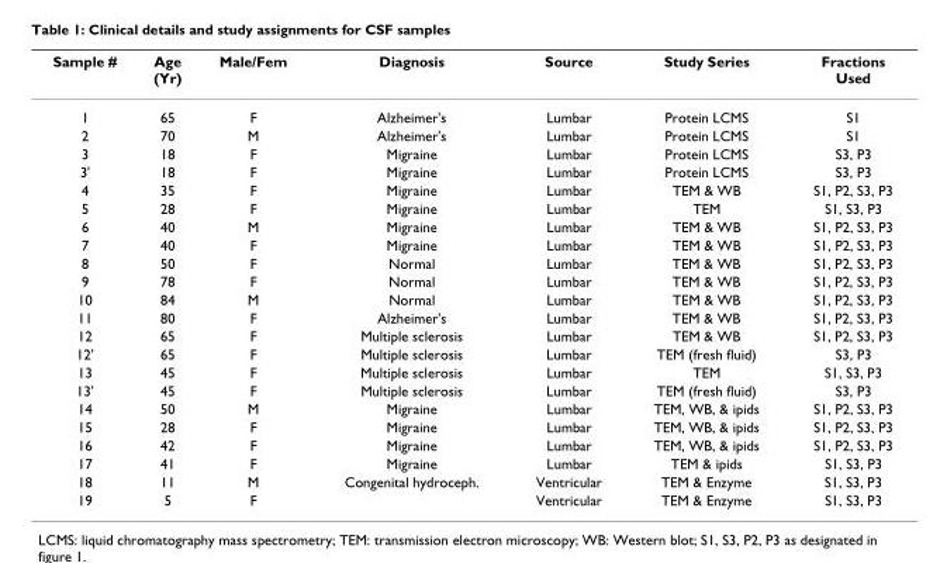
<table><thead><tr><td>Sample #</td><td>Age (Yr)</td><td>Male/Fem</td><td>Diagnosis</td><td>Source</td><td>Study Series</td><td>Fractions Used</td></tr></thead><tbody><tr><td>1</td><td>65</td><td>F</td><td>Alzheimer&#x27;s</td><td>Lumbar</td><td>Protein LCMS</td><td>S1</td></tr><tr><td>2</td><td>70</td><td>M</td><td>Alzheimer&#x27;s</td><td>Lumbar</td><td>Protein LCMS</td><td>S1</td></tr><tr><td>3</td><td>18</td><td>F</td><td>Migraine</td><td>Lumbar</td><td>Protein LCMS</td><td>S3, P3</td></tr><tr><td>3&#x27;</td><td>18</td><td>F</td><td>Migraine</td><td>Lumbar</td><td>Protein LCMS</td><td>S3, P3</td></tr><tr><td>4</td><td>35</td><td>F</td><td>Migraine</td><td>Lumbar</td><td>TEM &amp; WB</td><td>S1, P2, S3, P3</td></tr><tr><td>5</td><td>28</td><td>F</td><td>Migraine</td><td>Lumbar</td><td>TEM</td><td>S1, S3, P3</td></tr><tr><td>6</td><td>40</td><td>M</td><td>Migraine</td><td>Lumbar</td><td>TEM &amp; WB</td><td>S1, P2, S3, P3</td></tr><tr><td>7</td><td>40</td><td>F</td><td>Migraine</td><td>Lumbar</td><td>TEM &amp; WB</td><td>S1, P2, S3, P3</td></tr><tr><td>8</td><td>50</td><td>F</td><td>Normal</td><td>Lumbar</td><td>TEM &amp; WB</td><td>S1, P2, S3, P3</td></tr><tr><td>9</td><td>78</td><td>F</td><td>Normal</td><td>Lumbar</td><td>TEM &amp; WB</td><td>S1, P2, S3, P3</td></tr><tr><td>10</td><td>84</td><td>M</td><td>Normal</td><td>Lumbar</td><td>TEM &amp; WB</td><td>S1, P2, S3, P3</td></tr><tr><td>11</td><td>80</td><td>F</td><td>Alzheimer&#x27;s</td><td>Lumbar</td><td>TEM &amp; WB</td><td>S1, P2, S3, P3</td></tr><tr><td>12</td><td>65</td><td>F</td><td>Multiple sclerosis</td><td>Lumbar</td><td>TEM &amp; WB</td><td>S1, P2, S3, P3</td></tr><tr><td>12&#x27;</td><td>65</td><td>F</td><td>Multiple sclerosis</td><td>Lumbar</td><td>TEM (fresh fluid)</td><td>S3, P3</td></tr><tr><td>13</td><td>45</td><td>F</td><td>Multiple sclerosis</td><td>Lumbar</td><td>TEM</td><td>S1, S3, P3</td></tr><tr><td>13&#x27;</td><td>45</td><td>F</td><td>Multiple sclerosis</td><td>Lumbar</td><td>TEM (fresh fluid)</td><td>S3, P3</td></tr><tr><td>14</td><td>50</td><td>M</td><td>Migraine</td><td>Lumbar</td><td>TEM, WB, &amp; ipids</td><td>S1, P2, S3, P3</td></tr><tr><td>15</td><td>28</td><td>F</td><td>Migraine</td><td>Lumbar</td><td>TEM, WB, &amp; ipids</td><td>S1, P2, S3, P3</td></tr><tr><td>16</td><td>42</td><td>F</td><td>Migraine</td><td>Lumbar</td><td>TEM, WB, &amp; ipids</td><td>S1, P2, S3, P3</td></tr><tr><td>17</td><td>41</td><td>F</td><td>Migraine</td><td>Lumbar</td><td>TEM &amp; ipids</td><td>S1, S3, P3</td></tr><tr><td>18</td><td>11</td><td>M</td><td>Congenital hydroceph.</td><td>Ventricular</td><td>TEM &amp; Enzyme</td><td>S1, S3, P3</td></tr><tr><td>19</td><td>5</td><td>F</td><td></td><td>Ventricular</td><td>TEM &amp; Enzyme</td><td>S1, S3, P3</td></tr></tbody></table>